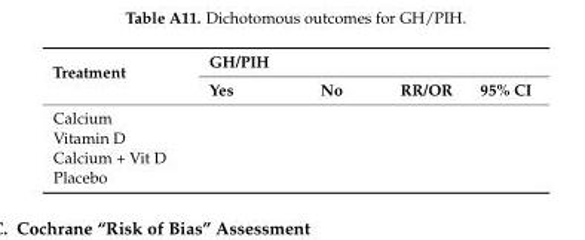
<table><thead><tr><td rowspan="2">Treatment</td><td colspan="4">GH/PIH</td></tr><tr><td>Yes</td><td>No</td><td>RR/OR</td><td>95% CI</td></tr></thead><tbody><tr><td colspan="5">Calcium</td></tr><tr><td colspan="5">Vitamin D</td></tr><tr><td colspan="5">Calcium + Vit D</td></tr><tr><td>Placebo</td><td></td><td></td><td></td><td></td></tr></tbody></table>